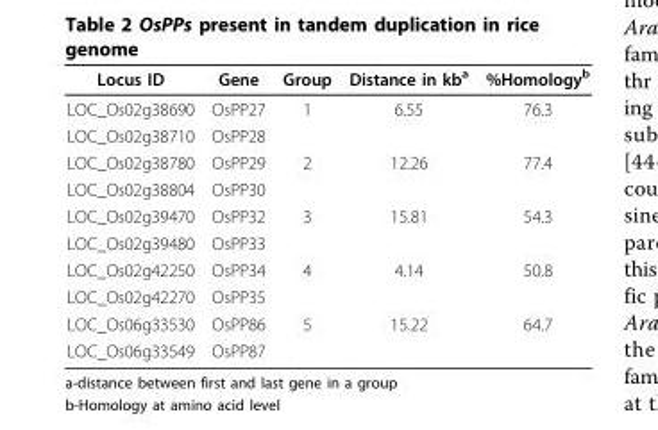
<table><thead><tr><td>Locus ID</td><td>Gene</td><td>Group</td><td>Distance in kb<sup>a</sup></td><td>%Homology<sup>b</sup></td></tr></thead><tbody><tr><td>LOC_Os02g38690</td><td>OsPP27</td><td>1</td><td>6.55</td><td>76.3</td></tr><tr><td>LOC_Os02g38710</td><td>OsPP28</td><td></td><td></td><td></td></tr><tr><td>LOC_Os02g38780</td><td>OsPP29</td><td>2</td><td>12.26</td><td>77.4</td></tr><tr><td>LOC_Os02g38804</td><td>OsPP30</td><td></td><td></td><td></td></tr><tr><td>LOC_Os02g39470</td><td>OsPP32</td><td>3</td><td>15.81</td><td>54.3</td></tr><tr><td>LOC_Os02g39480</td><td>OsPP33</td><td></td><td></td><td></td></tr><tr><td>LOC_Os02g42250</td><td>OsPP34</td><td>4</td><td>4.14</td><td>50.8</td></tr><tr><td>LOC_Os02g42270</td><td>OsPP35</td><td></td><td></td><td></td></tr><tr><td>LOC_Os06g33530</td><td>OsPP86</td><td>5</td><td>15.22</td><td>64.7</td></tr><tr><td>LOC_Os06g33549</td><td>OsPP87</td><td></td><td></td><td></td></tr></tbody></table>